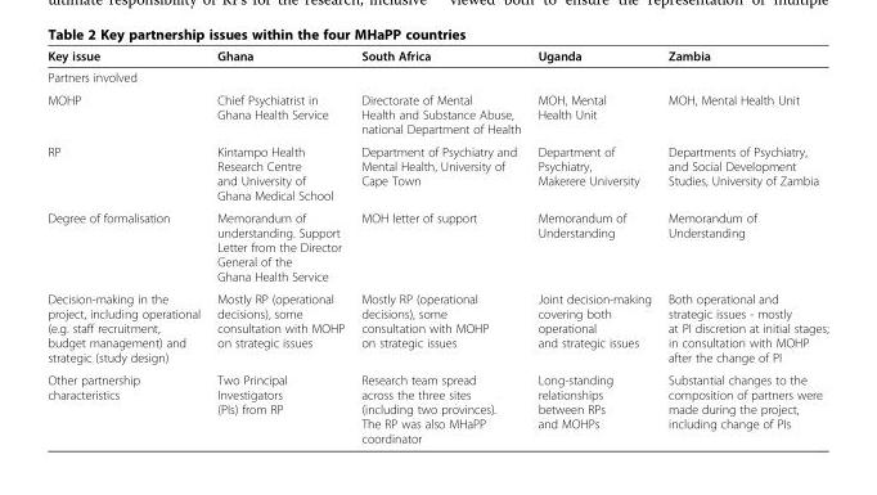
<table><thead><tr><td>Key issue</td><td>Ghana</td><td>South Africa</td><td>Uganda</td><td>Zambia</td></tr></thead><tbody><tr><td colspan="5">Partners involved</td></tr><tr><td>MOHP</td><td>Chief Psychiatrist in Ghana Health Service</td><td>Directorate of Mental Health and Substance Abuse, national Department of Health</td><td>MOH, Mental Health Unit</td><td>MOH, Mental Health Unit</td></tr><tr><td>RP</td><td>Kintampo Health Research Centre and University of Ghana Medical School</td><td>Department of Psychiatry and Mental Health, University of Cape Town</td><td>Department of Psychiatry, Makerere University</td><td>Departments of Psychiatry, and Social Development Studies, University of Zambia</td></tr><tr><td>Degree of formalisation</td><td>Memorandum of understanding. Support Letter from the Director General of the Ghana Health Service</td><td>MOH letter of support</td><td>Memorandum of Understanding</td><td>Memorandum of Understanding</td></tr><tr><td>Decision-making in the project, including operational (e.g. staff recruitment, budget management) and strategic (study design)</td><td>Mostly RP (operational decisions), some consultation with MOHP on strategic issues</td><td>Mostly RP (operational decisions), some consultation with MOHP on strategic issues</td><td>Joint decision-making covering both operational and strategic issues</td><td>Both operational and strategic issues - mostly at PI discretion at initial stages; in consultation with MOHP after the change of PI</td></tr><tr><td>Other partnership characteristics</td><td>Two Principal Investigators (PIs) from RP</td><td>Research team spread across the three sites (including two provinces). The RP was also MHaPP coordinator</td><td>Long-standing relationships between RPs and MOHPs</td><td>Substantial changes to the composition of partners were made during the project, including change of PIs</td></tr></tbody></table>